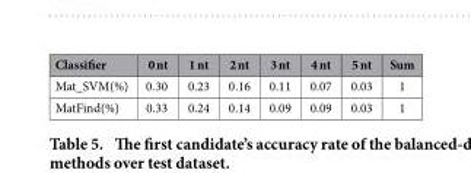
<table><thead><tr><td>Classifier</td><td>0 nt</td><td>1 nt</td><td>2 nt</td><td>3 nt</td><td>4 nt</td><td>5 nt</td><td>Sum</td></tr></thead><tbody><tr><td>Mat_SVM(%)</td><td>0.30</td><td>0.23</td><td>0.16</td><td>0.11</td><td>0.07</td><td>0.03</td><td>1</td></tr><tr><td>MatFind(%)</td><td>0.33</td><td>0.24</td><td>0.14</td><td>0.09</td><td>0.09</td><td>0.03</td><td>1</td></tr></tbody></table>